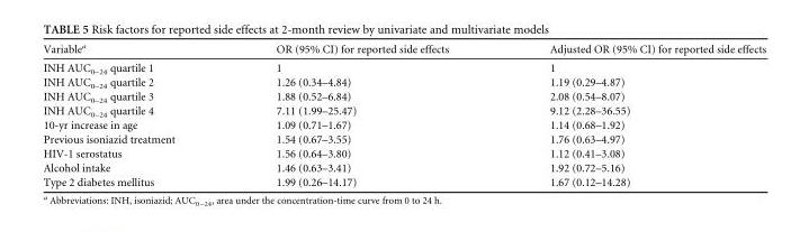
<table><thead><tr><td>Variable<sup>a</sup></td><td>OR (95% CI) for reported side effects</td><td>Adjusted OR (95% CI) for reported side effects</td></tr></thead><tbody><tr><td>INH AUC<sub>0–24</sub> quartile 1</td><td>1</td><td>1</td></tr><tr><td>INH AUC<sub>0–24</sub> quartile 2</td><td>1.26 (0.34–4.84)</td><td>1.19 (0.29–4.87)</td></tr><tr><td>INH AUC<sub>0–24</sub> quartile 3</td><td>1.88 (0.52–6.84)</td><td>2.08 (0.54–8.07)</td></tr><tr><td>INH AUC<sub>0–24</sub> quartile 4</td><td>7.11 (1.99–25.47)</td><td>9.12 (2.28–36.55)</td></tr><tr><td>10-yr increase in age</td><td>1.09 (0.71–1.67)</td><td>1.14 (0.68–1.92)</td></tr><tr><td>Previous isoniazid treatment</td><td>1.54 (0.67–3.55)</td><td>1.76 (0.63–4.97)</td></tr><tr><td>HIV-1 serostatus</td><td>1.56 (0.64–3.80)</td><td>1.12 (0.41–3.08)</td></tr><tr><td>Alcohol intake</td><td>1.46 (0.63–3.41)</td><td>1.92 (0.72–5.16)</td></tr><tr><td>Type 2 diabetes mellitus</td><td>1.99 (0.26–14.17)</td><td>1.67 (0.12–14.28)</td></tr></tbody></table>